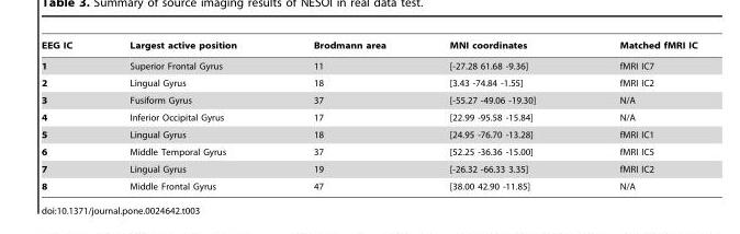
<table><thead><tr><td>EEG IC</td><td>Largest active position</td><td>Brodmann area</td><td>MNI coordinates</td><td>Matched fMRI IC</td></tr></thead><tbody><tr><td>1</td><td>Superior Frontal Gyrus</td><td>11</td><td>[-27.28 61.68 -9.36]</td><td>fMRI IC7</td></tr><tr><td>2</td><td>Lingual Gyrus</td><td>18</td><td>[3.43 -74.84 -1.55]</td><td>fMRI IC2</td></tr><tr><td>3</td><td>Fusiform Gyrus</td><td>37</td><td>[-55.27 -49.06 -19.30]</td><td>N/A</td></tr><tr><td>4</td><td>Inferior Occipital Gyrus</td><td>17</td><td>[22.99 -95.58 -15.84]</td><td>N/A</td></tr><tr><td>5</td><td>Lingual Gyrus</td><td>18</td><td>[24.95 -76.70 -13.28]</td><td>fMRI IC1</td></tr><tr><td>6</td><td>Middle Temporal Gyrus</td><td>37</td><td>[52.25 -36.36 -15.00]</td><td>fMRI IC5</td></tr><tr><td>7</td><td>Lingual Gyrus</td><td>19</td><td>[-26.32 -66.33 3.35]</td><td>fMRI IC2</td></tr><tr><td>8</td><td>Middle Frontal Gyrus</td><td>47</td><td>[38.00 42.90 -11.85]</td><td>N/A</td></tr></tbody></table>